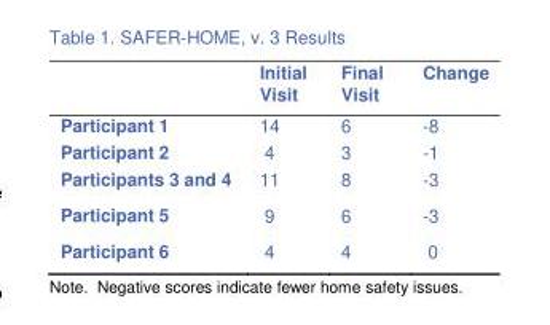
<table><thead><tr><td></td><td>Initial Visit</td><td>Final Visit</td><td>Change</td></tr></thead><tbody><tr><td>Participant 1</td><td>14</td><td>6</td><td>-8</td></tr><tr><td>Participant 2</td><td>4</td><td>3</td><td>-1</td></tr><tr><td>Participants 3 and 4</td><td>11</td><td>8</td><td>-3</td></tr><tr><td>Participant 5</td><td>9</td><td>6</td><td>-3</td></tr><tr><td>Participant 6</td><td>4</td><td>4</td><td>0</td></tr></tbody></table>